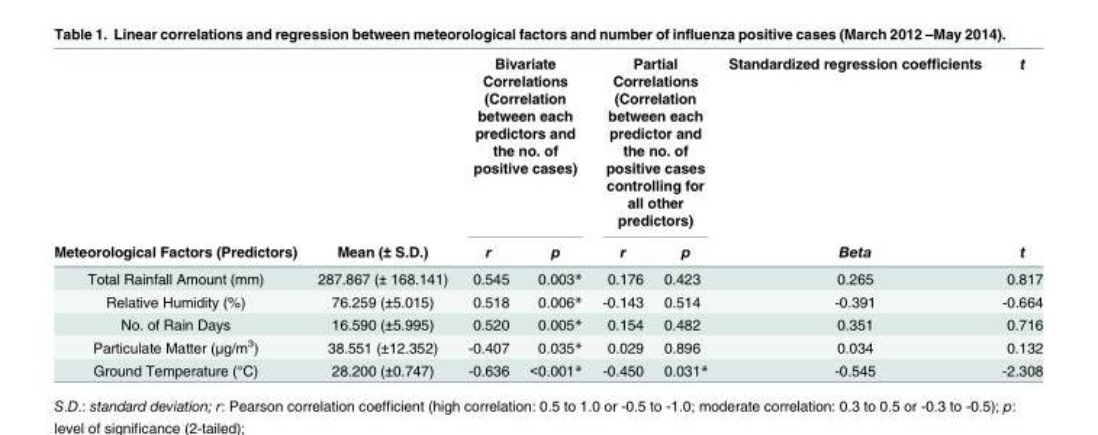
<table><thead><tr><td rowspan="2">Meteorological Factors (Predictors)</td><td rowspan="2">Mean (± S.D.)</td><td colspan="2">Bivariate Correlations (Correlation between each predictors and the no. of positive cases)</td><td colspan="2">Partial Correlations (Correlation between each predictor and the no. of positive cases controlling for all other predictors)</td><td rowspan="2">Standardized regression coefficients Beta</td><td rowspan="2">t t</td></tr><tr><td>r</td><td>p</td><td>r</td><td>p</td></tr></thead><tbody><tr><td>Total Rainfall Amount (mm)</td><td>287.867 (± 168.141)</td><td>0.545</td><td>0.003*</td><td>0.176</td><td>0.423</td><td>0.265</td><td>0.817</td></tr><tr><td>Relative Humidity (%)</td><td>76.259 (±5.015)</td><td>0.518</td><td>0.006*</td><td>-0.143</td><td>0.514</td><td>-0.391</td><td>-0.664</td></tr><tr><td>No. of Rain Days</td><td>16.590 (±5.995)</td><td>0.520</td><td>0.005*</td><td>0.154</td><td>0.482</td><td>0.351</td><td>0.716</td></tr><tr><td>Particulate Matter (μg/m<sup>3</sup>)</td><td>38.551 (±12.352)</td><td>-0.407</td><td>0.035*</td><td>0.029</td><td>0.896</td><td>0.034</td><td>0.132</td></tr><tr><td>Ground Temperature (°C)</td><td>28.200 (±0.747)</td><td>-0.636</td><td>&lt;0.001*</td><td>-0.450</td><td>0.031*</td><td>-0.545</td><td>-2.308</td></tr></tbody></table>